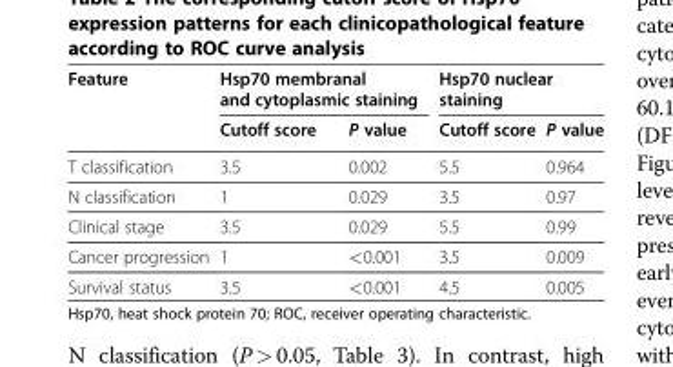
<table><thead><tr><td rowspan="2">Feature</td><td colspan="2">Hsp70 membranal and cytoplasmic staining</td><td colspan="2">Hsp70 nuclear staining</td></tr><tr><td>Cutoff score</td><td>P value</td><td>Cutoff score</td><td>P value</td></tr></thead><tbody><tr><td>T classification</td><td>3.5</td><td>0.002</td><td>5.5</td><td>0.964</td></tr><tr><td>N classification</td><td>1</td><td>0.029</td><td>3.5</td><td>0.97</td></tr><tr><td>Clinical stage</td><td>3.5</td><td>0.029</td><td>5.5</td><td>0.99</td></tr><tr><td>Cancer progression</td><td>1</td><td>&lt;0.001</td><td>3.5</td><td>0.009</td></tr><tr><td>Survival status</td><td>3.5</td><td>&lt;0.001</td><td>4.5</td><td>0.005</td></tr></tbody></table>